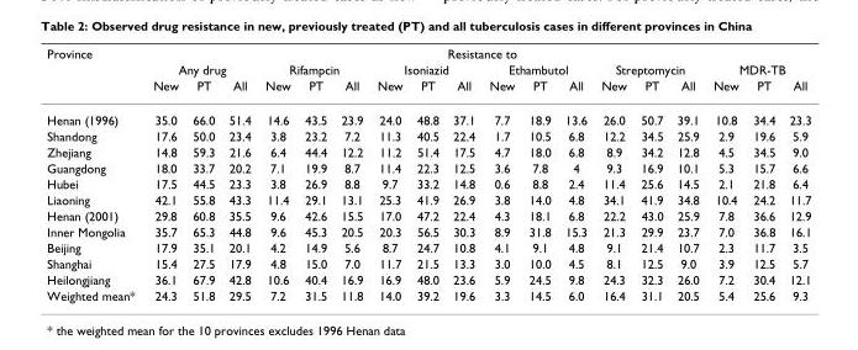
<table><thead><tr><td rowspan="3">Province</td><td colspan="18">Resistance to</td></tr><tr><td colspan="3">Any drug</td><td colspan="3">Rifampcin</td><td colspan="3">Isoniazid</td><td colspan="3">Ethambutol</td><td colspan="3">Streptomycin</td><td colspan="3">MDR-TB</td></tr><tr><td>New</td><td>PT</td><td>All</td><td>New</td><td>PT</td><td>All</td><td>New</td><td>PT</td><td>All</td><td>New</td><td>PT</td><td>All</td><td>New</td><td>PT</td><td>All</td><td>New</td><td>PT</td><td>All</td></tr></thead><tbody><tr><td>Henan (1996)</td><td>35.0</td><td>66.0</td><td>51.4</td><td>14.6</td><td>43.5</td><td>23.9</td><td>24.0</td><td>48.8</td><td>37.1</td><td>7.7</td><td>18.9</td><td>13.6</td><td>26.0</td><td>50.7</td><td>39.1</td><td>10.8</td><td>34.4</td><td>23.3</td></tr><tr><td>Shandong</td><td>17.6</td><td>50.0</td><td>23.4</td><td>3.8</td><td>23.2</td><td>7.2</td><td>11.3</td><td>40.5</td><td>22.4</td><td>1.7</td><td>10.5</td><td>6.8</td><td>12.2</td><td>34.5</td><td>25.9</td><td>2.9</td><td>19.6</td><td>5.9</td></tr><tr><td>Zhejiang</td><td>14.8</td><td>59.3</td><td>21.6</td><td>6.4</td><td>44.4</td><td>12.2</td><td>11.2</td><td>51.4</td><td>17.5</td><td>4.7</td><td>18.0</td><td>6.8</td><td>8.9</td><td>34.2</td><td>12.8</td><td>4.5</td><td>34.5</td><td>9.0</td></tr><tr><td>Guangdong</td><td>18.0</td><td>33.7</td><td>20.2</td><td>7.1</td><td>19.9</td><td>8.7</td><td>11.4</td><td>22.3</td><td>12.5</td><td>3.6</td><td>7.8</td><td>4</td><td>9.3</td><td>16.9</td><td>10.1</td><td>5.3</td><td>15.7</td><td>6.6</td></tr><tr><td>Hubei</td><td>17.5</td><td>44.5</td><td>23.3</td><td>3.8</td><td>26.9</td><td>8.8</td><td>9.7</td><td>33.2</td><td>14.8</td><td>0.6</td><td>8.8</td><td>2.4</td><td>11.4</td><td>25.6</td><td>14.5</td><td>2.1</td><td>21.8</td><td>6.4</td></tr><tr><td>Liaoning</td><td>42.1</td><td>55.8</td><td>43.3</td><td>11.4</td><td>29.1</td><td>13.1</td><td>25.3</td><td>41.9</td><td>26.9</td><td>3.8</td><td>14.0</td><td>4.8</td><td>34.1</td><td>41.9</td><td>34.8</td><td>10.4</td><td>24.2</td><td>11.7</td></tr><tr><td>Henan (2001)</td><td>29.8</td><td>60.8</td><td>35.5</td><td>9.6</td><td>42.6</td><td>15.5</td><td>17.0</td><td>47.2</td><td>22.4</td><td>4.3</td><td>18.1</td><td>6.8</td><td>22.2</td><td>43.0</td><td>25.9</td><td>7.8</td><td>36.6</td><td>12.9</td></tr><tr><td>Inner Mongolia</td><td>35.7</td><td>65.3</td><td>44.8</td><td>9.6</td><td>45.3</td><td>20.5</td><td>20.3</td><td>56.5</td><td>30.3</td><td>8.9</td><td>31.8</td><td>15.3</td><td>21.3</td><td>29.9</td><td>23.7</td><td>7.0</td><td>36.8</td><td>16.1</td></tr><tr><td>Beijing</td><td>17.9</td><td>35.1</td><td>20.1</td><td>4.2</td><td>14.9</td><td>5.6</td><td>8.7</td><td>24.7</td><td>10.8</td><td>4.1</td><td>9.1</td><td>4.8</td><td>9.1</td><td>21.4</td><td>10.7</td><td>2.3</td><td>11.7</td><td>3.5</td></tr><tr><td>Shanghai</td><td>15.4</td><td>27.5</td><td>17.9</td><td>4.8</td><td>15.0</td><td>7.0</td><td>11.7</td><td>21.5</td><td>13.3</td><td>3.0</td><td>10.0</td><td>4.5</td><td>8.1</td><td>12.5</td><td>9.0</td><td>3.9</td><td>12.5</td><td>5.7</td></tr><tr><td>Heilongjiang</td><td>36.1</td><td>67.9</td><td>42.8</td><td>10.6</td><td>40.4</td><td>16.9</td><td>16.9</td><td>48.0</td><td>23.6</td><td>5.9</td><td>24.5</td><td>9.8</td><td>24.3</td><td>32.3</td><td>26.0</td><td>7.2</td><td>30.4</td><td>12.1</td></tr><tr><td>Weighted mean*</td><td>24.3</td><td>51.8</td><td>29.5</td><td>7.2</td><td>31.5</td><td>11.8</td><td>14.0</td><td>39.2</td><td>19.6</td><td>3.3</td><td>14.5</td><td>6.0</td><td>16.4</td><td>31.1</td><td>20.5</td><td>5.4</td><td>25.6</td><td>9.3</td></tr></tbody></table>